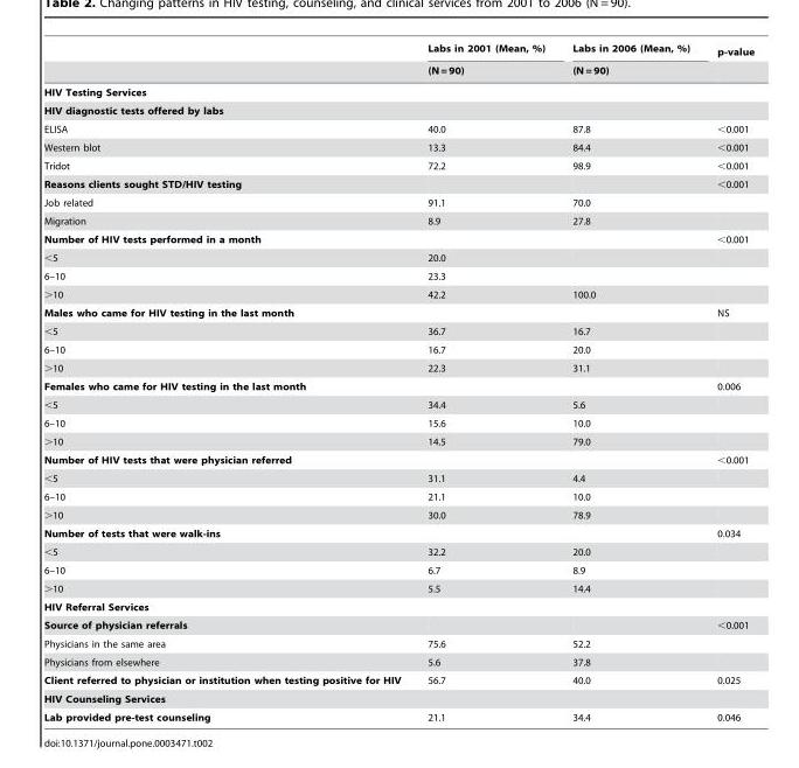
<table><thead><tr><td rowspan="2"></td><td rowspan="2">Labs in 2001 (Mean, %) (N = 90)</td><td rowspan="2">Labs in 2006 (Mean, %) (N = 90)</td><td rowspan="2">p-value</td></tr><tr></tr></thead><tbody><tr><td colspan="4">HIV Testing Services</td></tr><tr><td colspan="4">HIV diagnostic tests offered by labs</td></tr><tr><td>ELISA</td><td>40.0</td><td>87.8</td><td>&lt;0.001</td></tr><tr><td>Western blot</td><td>13.3</td><td>84.4</td><td>&lt;0.001</td></tr><tr><td>Tridot</td><td>72.2</td><td>98.9</td><td>&lt;0.001</td></tr><tr><td>Reasons clients sought STD/HIV testing</td><td></td><td></td><td>&lt;0.001</td></tr><tr><td>Job related</td><td>91.1</td><td>70.0</td><td></td></tr><tr><td>Migration</td><td>8.9</td><td>27.8</td><td></td></tr><tr><td>Number of HIV tests performed in a month</td><td></td><td></td><td>&lt;0.001</td></tr><tr><td>&lt;5</td><td>20.0</td><td></td><td></td></tr><tr><td>6–10</td><td>23.3</td><td></td><td></td></tr><tr><td>&gt;10</td><td>42.2</td><td>100.0</td><td></td></tr><tr><td>Males who came for HIV testing in the last month</td><td></td><td></td><td>NS</td></tr><tr><td>&lt;5</td><td>36.7</td><td>16.7</td><td></td></tr><tr><td>6–10</td><td>16.7</td><td>20.0</td><td></td></tr><tr><td>&gt;10</td><td>22.3</td><td>31.1</td><td></td></tr><tr><td>Females who came for HIV testing in the last month</td><td></td><td></td><td>0.006</td></tr><tr><td>&lt;5</td><td>34.4</td><td>5.6</td><td></td></tr><tr><td>6–10</td><td>15.6</td><td>10.0</td><td></td></tr><tr><td>&gt;10</td><td>14.5</td><td>79.0</td><td></td></tr><tr><td>Number of HIV tests that were physician referred</td><td></td><td></td><td>&lt;0.001</td></tr><tr><td>&lt;5</td><td>31.1</td><td>4.4</td><td></td></tr><tr><td>6–10</td><td>21.1</td><td>10.0</td><td></td></tr><tr><td>&gt;10</td><td>30.0</td><td>78.9</td><td></td></tr><tr><td>Number of tests that were walk-ins</td><td></td><td></td><td>0.034</td></tr><tr><td>&lt;5</td><td>32.2</td><td>20.0</td><td></td></tr><tr><td>6–10</td><td>6.7</td><td>8.9</td><td></td></tr><tr><td>&gt;10</td><td>5.5</td><td>14.4</td><td></td></tr><tr><td colspan="4">HIV Referral Services</td></tr><tr><td>Source of physician referrals</td><td></td><td></td><td>&lt;0.001</td></tr><tr><td>Physicians in the same area</td><td>75.6</td><td>52.2</td><td></td></tr><tr><td>Physicians from elsewhere</td><td>5.6</td><td>37.8</td><td></td></tr><tr><td>Client referred to physician or institution when testing positive for HIV</td><td>56.7</td><td>40.0</td><td>0.025</td></tr><tr><td colspan="4">HIV Counseling Services</td></tr><tr><td>Lab provided pre-test counseling</td><td>21.1</td><td>34.4</td><td>0.046</td></tr></tbody></table>